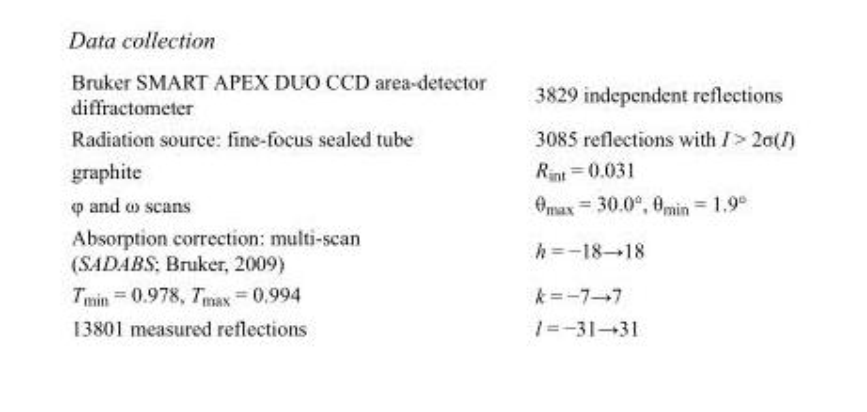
<table><tbody><tr><td>Bruker SMART APEX DUO CCD area-detector diffractometer</td><td>3829 independent reflections</td></tr><tr><td>Radiation source: fine-focus sealed tube</td><td>3085 reflections with I &gt; 2σ(I)</td></tr><tr><td>graphite</td><td>R<sub>int</sub> = 0.031</td></tr><tr><td>φ and ω scans</td><td>θ<sub>max</sub> = 30.0°, θ<sub>min</sub> = 1.9°</td></tr><tr><td>Absorption correction: multi-scan (SADABS; Bruker, 2009)</td><td>h = −18→18</td></tr><tr><td>T<sub>min</sub> = 0.978, T<sub>max</sub> = 0.994</td><td>k = −7→7</td></tr><tr><td>13801 measured reflections</td><td>l = −31→31</td></tr></tbody></table>